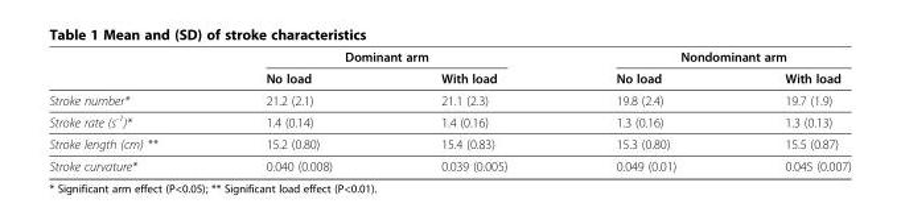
<table><thead><tr><td rowspan="2"></td><td colspan="2">Dominant arm</td><td colspan="2">Nondominant arm</td></tr><tr><td>No load</td><td>With load</td><td>No load</td><td>With load</td></tr></thead><tbody><tr><td>Stroke number*</td><td>21.2 (2.1)</td><td>21.1 (2.3)</td><td>19.8 (2.4)</td><td>19.7 (1.9)</td></tr><tr><td>Stroke rate (s<sup>-1</sup>)*</td><td>1.4 (0.14)</td><td>1.4 (0.16)</td><td>1.3 (0.16)</td><td>1.3 (0.13)</td></tr><tr><td>Stroke length (cm) **</td><td>15.2 (0.80)</td><td>15.4 (0.83)</td><td>15.3 (0.80)</td><td>15.5 (0.87)</td></tr><tr><td>Stroke curvature*</td><td>0.040 (0.008)</td><td>0.039 (0.005)</td><td>0.049 (0.01)</td><td>0.045 (0.007)</td></tr></tbody></table>